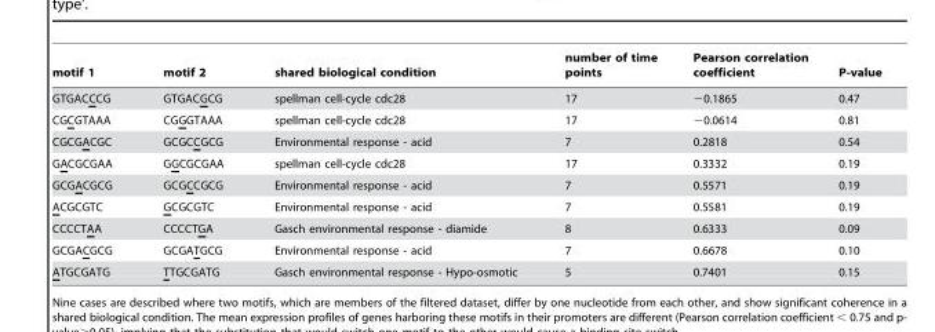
<table><thead><tr><td>motif 1</td><td>motif 2</td><td>shared biological condition</td><td>number of time points</td><td>Pearson correlation coefficient</td><td>P-value</td></tr></thead><tbody><tr><td>GTGACCCG</td><td>GTGACGCG</td><td>spellman cell-cycle cdc28</td><td>17</td><td>−0.1865</td><td>0.47</td></tr><tr><td>CGCGTAAA</td><td>CGGGTAAA</td><td>spellman cell-cycle cdc28</td><td>17</td><td>−0.0614</td><td>0.81</td></tr><tr><td>CGCGACGC</td><td>GCGCCGCG</td><td>Environmental response - acid</td><td>7</td><td>0.2818</td><td>0.54</td></tr><tr><td>GACGCGAA</td><td>GGCGCGAA</td><td>spellman cell-cycle cdc28</td><td>17</td><td>0.3332</td><td>0.19</td></tr><tr><td>GCGACGCG</td><td>GCGCCGCG</td><td>Environmental response - acid</td><td>7</td><td>0.5571</td><td>0.19</td></tr><tr><td>ACGCGTC</td><td>GCGCGTC</td><td>Environmental response - acid</td><td>7</td><td>0.5581</td><td>0.19</td></tr><tr><td>CCCCTAA</td><td>CCCCTGA</td><td>Gasch environmental response - diamide</td><td>8</td><td>0.6333</td><td>0.09</td></tr><tr><td>GCGACGCG</td><td>GCGATGCG</td><td>Environmental response - acid</td><td>7</td><td>0.6678</td><td>0.10</td></tr><tr><td>ATGCGATG</td><td>TTGCGATG</td><td>Gasch environmental response - Hypo-osmotic</td><td>5</td><td>0.7401</td><td>0.15</td></tr></tbody></table>